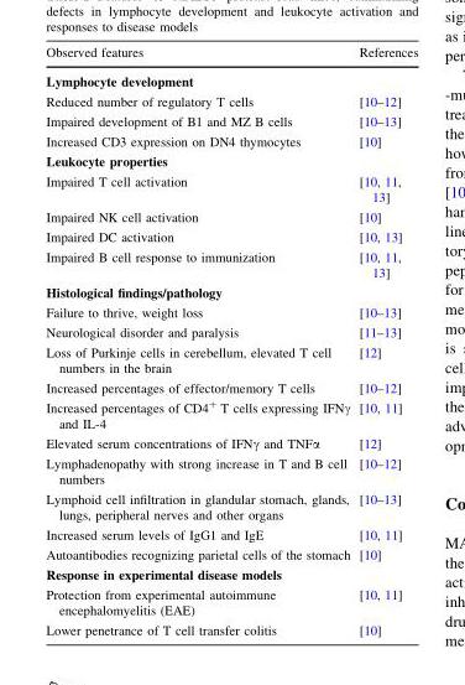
<table><thead><tr><td>Observed features</td><td>References</td></tr></thead><tbody><tr><td colspan="2">Lymphocyte development</td></tr><tr><td>Reduced number of regulatory T cells</td><td>[10–12]</td></tr><tr><td>Impaired development of B1 and MZ B cells</td><td>[10–13]</td></tr><tr><td>Increased CD3 expression on DN4 thymocytes</td><td>[10]</td></tr><tr><td colspan="2">Leukocyte properties</td></tr><tr><td>Impaired T cell activation</td><td>[10, 11, 13]</td></tr><tr><td>Impaired NK cell activation</td><td>[10]</td></tr><tr><td>Impaired DC activation</td><td>[10, 13]</td></tr><tr><td>Impaired B cell response to immunization</td><td>[10, 11, 13]</td></tr><tr><td colspan="2">Histological findings/pathology</td></tr><tr><td>Failure to thrive, weight loss</td><td>[10–13]</td></tr><tr><td>Neurological disorder and paralysis</td><td>[11–13]</td></tr><tr><td>Loss of Purkinje cells in cerebellum, elevated T cell numbers in the brain</td><td>[12]</td></tr><tr><td>Increased percentages of effector/memory T cells</td><td>[10–12]</td></tr><tr><td>Increased percentages of CD4<sup>+</sup> T cells expressing IFNγ and IL-4</td><td>[10, 11]</td></tr><tr><td>Elevated serum concentrations of IFNγ and TNFα</td><td>[12]</td></tr><tr><td>Lymphadenopathy with strong increase in T and B cell numbers</td><td>[10–12]</td></tr><tr><td>Lymphoid cell infiltration in glandular stomach, glands, lungs, peripheral nerves and other organs</td><td>[10–13]</td></tr><tr><td>Increased serum levels of IgG1 and IgE</td><td>[10, 11]</td></tr><tr><td>Autoantibodies recognizing parietal cells of the stomach</td><td>[10]</td></tr><tr><td colspan="2">Response in experimental disease models</td></tr><tr><td>Protection from experimental autoimmune encephalomyelitis (EAE)</td><td>[10, 11]</td></tr><tr><td>Lower penetrance of T cell transfer colitis</td><td>[10]</td></tr></tbody></table>